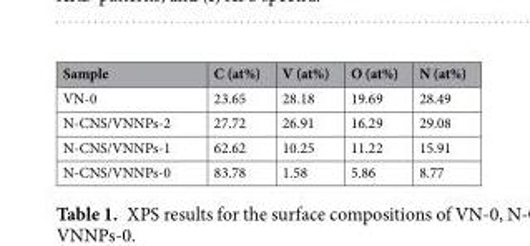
<table><thead><tr><td>Sample</td><td>C (at%)</td><td>V (at%)</td><td>O (at%)</td><td>N (at%)</td></tr></thead><tbody><tr><td>VN-0</td><td>23.65</td><td>28.18</td><td>19.69</td><td>28.49</td></tr><tr><td>N-CNS/VNNPs-2</td><td>27.72</td><td>26.91</td><td>16.29</td><td>29.08</td></tr><tr><td>N-CNS/VNNPs-1</td><td>62.62</td><td>10.25</td><td>11.22</td><td>15.91</td></tr><tr><td>N-CNS/VNNPs-0</td><td>83.78</td><td>1.58</td><td>5.86</td><td>8.77</td></tr></tbody></table>